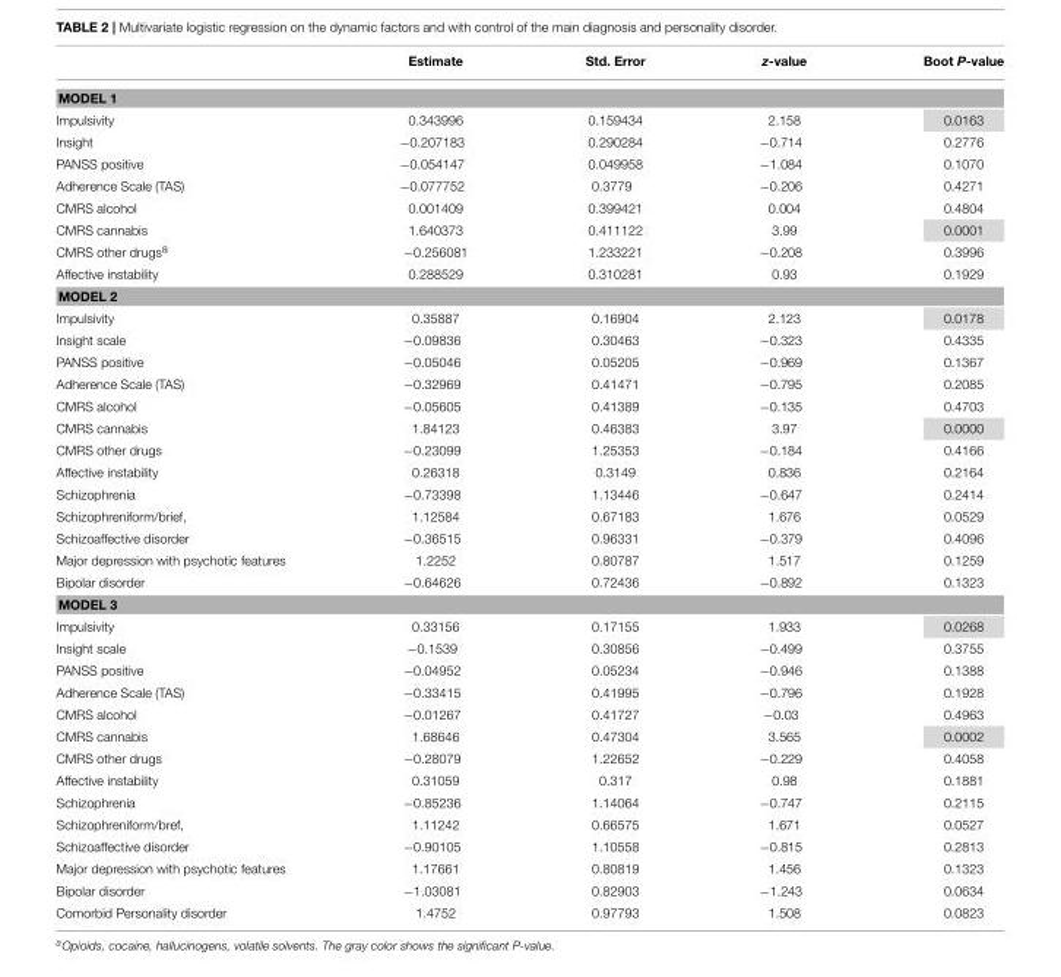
<table><thead><tr><td></td><td>Estimate</td><td>Std. Error</td><td>z-value</td><td>Boot P-value</td></tr></thead><tbody><tr><td colspan="5">MODEL 1</td></tr><tr><td>Impulsivity</td><td>0.343996</td><td>0.159434</td><td>2.158</td><td>0.0163</td></tr><tr><td>Insight</td><td>−0.207183</td><td>0.290284</td><td>−0.714</td><td>0.2776</td></tr><tr><td>PANSS positive</td><td>−0.054147</td><td>0.049958</td><td>−1.084</td><td>0.1070</td></tr><tr><td>Adherence Scale (TAS)</td><td>−0.077752</td><td>0.3779</td><td>−0.206</td><td>0.4271</td></tr><tr><td>CMRS alcohol</td><td>0.001409</td><td>0.399421</td><td>0.004</td><td>0.4804</td></tr><tr><td>CMRS cannabis</td><td>1.640373</td><td>0.411122</td><td>3.99</td><td>0.0001</td></tr><tr><td>CMRS other drugs<sup>a</sup></td><td>−0.256081</td><td>1.233221</td><td>−0.208</td><td>0.3996</td></tr><tr><td>Affective instability</td><td>0.288529</td><td>0.310281</td><td>0.93</td><td>0.1929</td></tr><tr><td colspan="5">MODEL 2</td></tr><tr><td>Impulsivity</td><td>0.35887</td><td>0.16904</td><td>2.123</td><td>0.0178</td></tr><tr><td>Insight scale</td><td>−0.09836</td><td>0.30463</td><td>−0.323</td><td>0.4335</td></tr><tr><td>PANSS positive</td><td>−0.05046</td><td>0.05205</td><td>−0.969</td><td>0.1367</td></tr><tr><td>Adherence Scale (TAS)</td><td>−0.32969</td><td>0.41471</td><td>−0.795</td><td>0.2085</td></tr><tr><td>CMRS alcohol</td><td>−0.05605</td><td>0.41389</td><td>−0.135</td><td>0.4703</td></tr><tr><td>CMRS cannabis</td><td>1.84123</td><td>0.46383</td><td>3.97</td><td>0.0000</td></tr><tr><td>CMRS other drugs</td><td>−0.23099</td><td>1.25353</td><td>−0.184</td><td>0.4166</td></tr><tr><td>Affective instability</td><td>0.26318</td><td>0.3149</td><td>0.836</td><td>0.2164</td></tr><tr><td>Schizophrenia</td><td>−0.73398</td><td>1.13446</td><td>−0.647</td><td>0.2414</td></tr><tr><td>Schizophreniform/brief,</td><td>1.12584</td><td>0.67183</td><td>1.676</td><td>0.0529</td></tr><tr><td>Schizoaffective disorder</td><td>−0.36515</td><td>0.96331</td><td>−0.379</td><td>0.4096</td></tr><tr><td>Major depression with psychotic features</td><td>1.2252</td><td>0.80787</td><td>1.517</td><td>0.1259</td></tr><tr><td>Bipolar disorder</td><td>−0.64626</td><td>0.72436</td><td>−0.892</td><td>0.1323</td></tr><tr><td colspan="5">MODEL 3</td></tr><tr><td>Impulsivity</td><td>0.33156</td><td>0.17155</td><td>1.933</td><td>0.0268</td></tr><tr><td>Insight scale</td><td>−0.1539</td><td>0.30856</td><td>−0.499</td><td>0.3755</td></tr><tr><td>PANSS positive</td><td>−0.04952</td><td>0.05234</td><td>−0.946</td><td>0.1388</td></tr><tr><td>Adherence Scale (TAS)</td><td>−0.33415</td><td>0.41995</td><td>−0.796</td><td>0.1928</td></tr><tr><td>CMRS alcohol</td><td>−0.01267</td><td>0.41727</td><td>−0.03</td><td>0.4963</td></tr><tr><td>CMRS cannabis</td><td>1.68646</td><td>0.47304</td><td>3.565</td><td>0.0002</td></tr><tr><td>CMRS other drugs</td><td>−0.28079</td><td>1.22652</td><td>−0.229</td><td>0.4058</td></tr><tr><td>Affective instability</td><td>0.31059</td><td>0.317</td><td>0.98</td><td>0.1881</td></tr><tr><td>Schizophrenia</td><td>−0.85236</td><td>1.14064</td><td>−0.747</td><td>0.2115</td></tr><tr><td>Schizophreniform/bref,</td><td>1.11242</td><td>0.66575</td><td>1.671</td><td>0.0527</td></tr><tr><td>Schizoaffective disorder</td><td>−0.90105</td><td>1.10558</td><td>−0.815</td><td>0.2813</td></tr><tr><td>Major depression with psychotic features</td><td>1.17661</td><td>0.80819</td><td>1.456</td><td>0.1323</td></tr><tr><td>Bipolar disorder</td><td>−1.03081</td><td>0.82903</td><td>−1.243</td><td>0.0634</td></tr><tr><td>Comorbid Personality disorder</td><td>1.4752</td><td>0.97793</td><td>1.508</td><td>0.0823</td></tr></tbody></table>